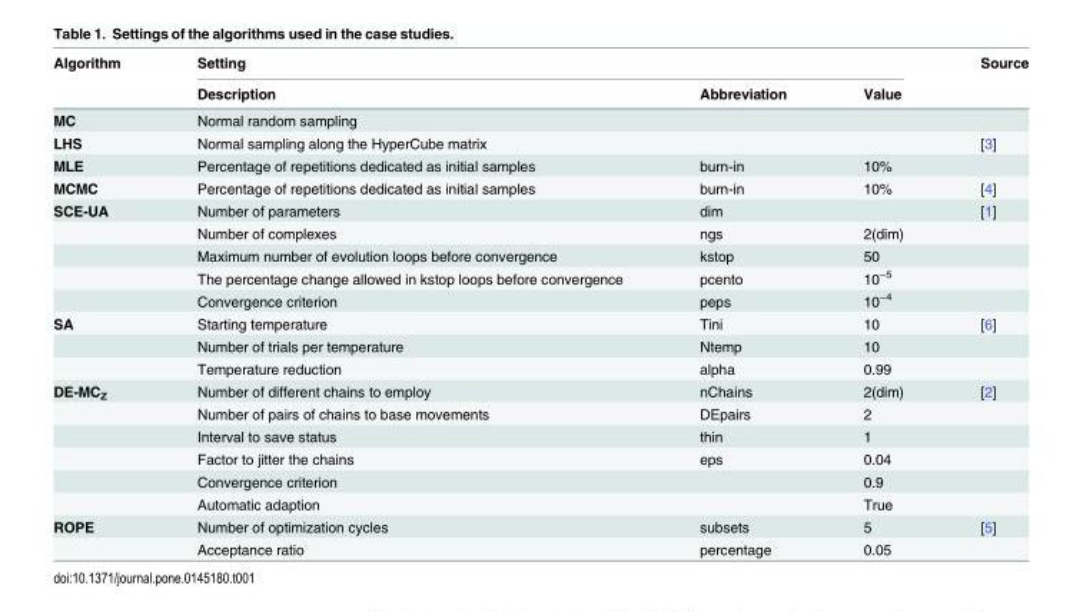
<table><thead><tr><td rowspan="2">Algorithm</td><td colspan="3">Setting</td><td rowspan="2">Source</td></tr><tr><td>Description</td><td>Abbreviation</td><td>Value</td></tr></thead><tbody><tr><td>MC</td><td>Normal random sampling</td><td></td><td></td><td></td></tr><tr><td>LHS</td><td>Normal sampling along the HyperCube matrix</td><td></td><td></td><td>[3]</td></tr><tr><td>MLE</td><td>Percentage of repetitions dedicated as initial samples</td><td>burn-in</td><td>10%</td><td></td></tr><tr><td>MCMC</td><td>Percentage of repetitions dedicated as initial samples</td><td>burn-in</td><td>10%</td><td>[4]</td></tr><tr><td rowspan="5">SCE-UA</td><td>Number of parameters</td><td>dim</td><td></td><td>[1]</td></tr><tr><td>Number of complexes</td><td>ngs</td><td>2(dim)</td><td></td></tr><tr><td>Maximum number of evolution loops before convergence</td><td>kstop</td><td>50</td><td></td></tr><tr><td>The percentage change allowed in kstop loops before convergence</td><td>pcento</td><td>10<sup>−5</sup></td><td></td></tr><tr><td>Convergence criterion</td><td>peps</td><td>10<sup>−4</sup></td><td></td></tr><tr><td rowspan="3">SA</td><td>Starting temperature</td><td>Tini</td><td>10</td><td>[6]</td></tr><tr><td>Number of trials per temperature</td><td>Ntemp</td><td>10</td><td></td></tr><tr><td>Temperature reduction</td><td>alpha</td><td>0.99</td><td></td></tr><tr><td rowspan="6">DE-MC<sub>Z</sub></td><td>Number of different chains to employ</td><td>nChains</td><td>2(dim)</td><td>[2]</td></tr><tr><td>Number of pairs of chains to base movements</td><td>DEpairs</td><td>2</td><td></td></tr><tr><td>Interval to save status</td><td>thin</td><td>1</td><td></td></tr><tr><td>Factor to jitter the chains</td><td>eps</td><td>0.04</td><td></td></tr><tr><td>Convergence criterion</td><td></td><td>0.9</td><td></td></tr><tr><td>Automatic adaption</td><td></td><td>True</td><td></td></tr><tr><td rowspan="2">ROPE</td><td>Number of optimization cycles</td><td>subsets</td><td>5</td><td>[5]</td></tr><tr><td>Acceptance ratio</td><td>percentage</td><td>0.05</td><td></td></tr></tbody></table>